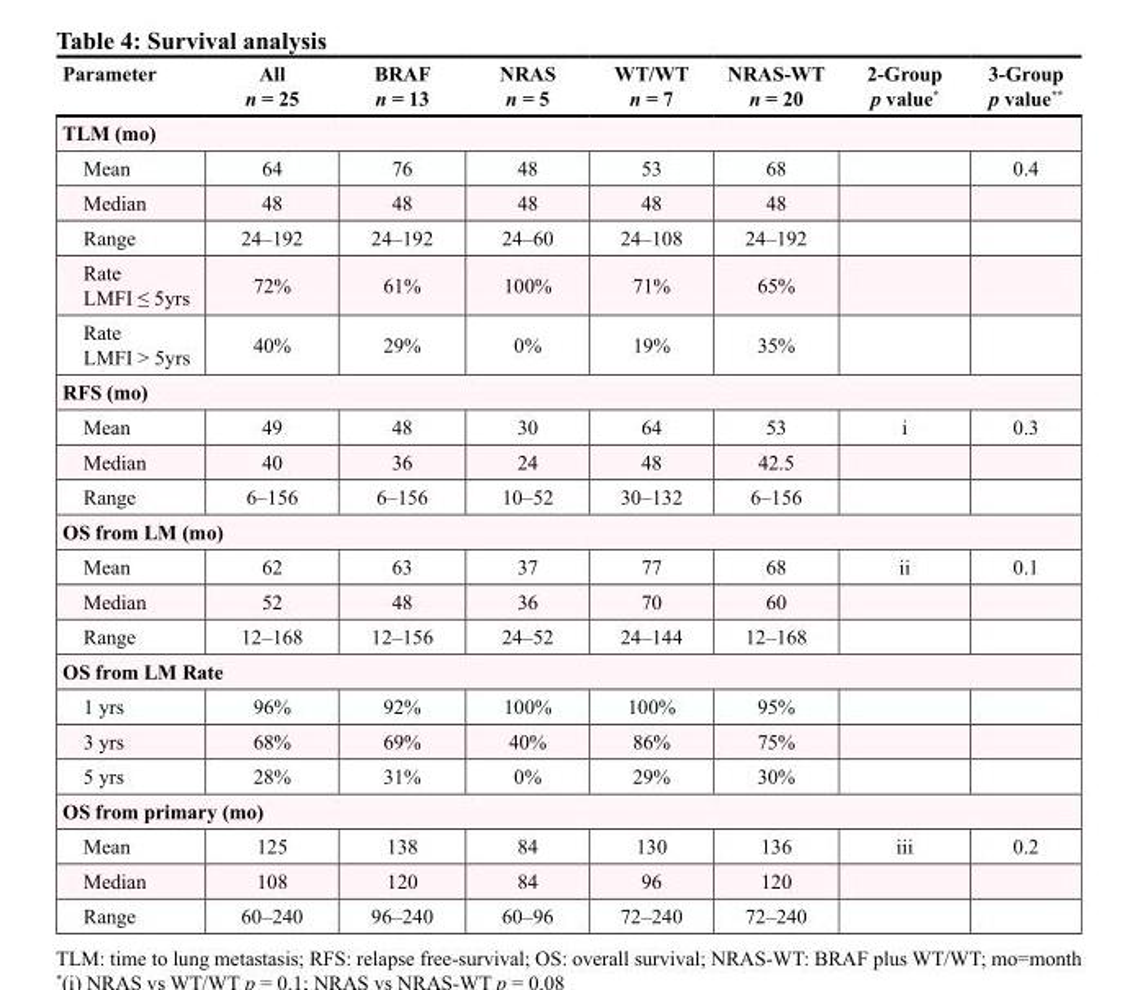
<table><thead><tr><td>Parameter</td><td>All n = 25</td><td>BRAF n = 13</td><td>NRAS n = 5</td><td>WT/WT n = 7</td><td>NRAS-WT n = 20</td><td>2-Group p value*</td><td>3-Group p value**</td></tr></thead><tbody><tr><td colspan="8">TLM (mo)</td></tr><tr><td>Mean</td><td>64</td><td>76</td><td>48</td><td>53</td><td>68</td><td></td><td>0.4</td></tr><tr><td>Median</td><td>48</td><td>48</td><td>48</td><td>48</td><td>48</td><td></td><td></td></tr><tr><td>Range</td><td>24–192</td><td>24–192</td><td>24–60</td><td>24–108</td><td>24–192</td><td></td><td></td></tr><tr><td>Rate LMFI ≤ 5yrs</td><td>72%</td><td>61%</td><td>100%</td><td>71%</td><td>65%</td><td></td><td></td></tr><tr><td>Rate LMFI &gt; 5yrs</td><td>40%</td><td>29%</td><td>0%</td><td>19%</td><td>35%</td><td></td><td></td></tr><tr><td colspan="8">RFS (mo)</td></tr><tr><td>Mean</td><td>49</td><td>48</td><td>30</td><td>64</td><td>53</td><td>i</td><td>0.3</td></tr><tr><td>Median</td><td>40</td><td>36</td><td>24</td><td>48</td><td>42.5</td><td></td><td></td></tr><tr><td>Range</td><td>6–156</td><td>6–156</td><td>10–52</td><td>30–132</td><td>6–156</td><td></td><td></td></tr><tr><td colspan="8">OS from LM (mo)</td></tr><tr><td>Mean</td><td>62</td><td>63</td><td>37</td><td>77</td><td>68</td><td>ii</td><td>0.1</td></tr><tr><td>Median</td><td>52</td><td>48</td><td>36</td><td>70</td><td>60</td><td></td><td></td></tr><tr><td>Range</td><td>12–168</td><td>12–156</td><td>24–52</td><td>24–144</td><td>12–168</td><td></td><td></td></tr><tr><td colspan="8">OS from LM Rate</td></tr><tr><td>1 yrs</td><td>96%</td><td>92%</td><td>100%</td><td>100%</td><td>95%</td><td></td><td></td></tr><tr><td>3 yrs</td><td>68%</td><td>69%</td><td>40%</td><td>86%</td><td>75%</td><td></td><td></td></tr><tr><td>5 yrs</td><td>28%</td><td>31%</td><td>0%</td><td>29%</td><td>30%</td><td></td><td></td></tr><tr><td colspan="8">OS from primary (mo)</td></tr><tr><td>Mean</td><td>125</td><td>138</td><td>84</td><td>130</td><td>136</td><td>iii</td><td>0.2</td></tr><tr><td>Median</td><td>108</td><td>120</td><td>84</td><td>96</td><td>120</td><td></td><td></td></tr><tr><td>Range</td><td>60–240</td><td>96–240</td><td>60–96</td><td>72–240</td><td>72–240</td><td></td><td></td></tr></tbody></table>